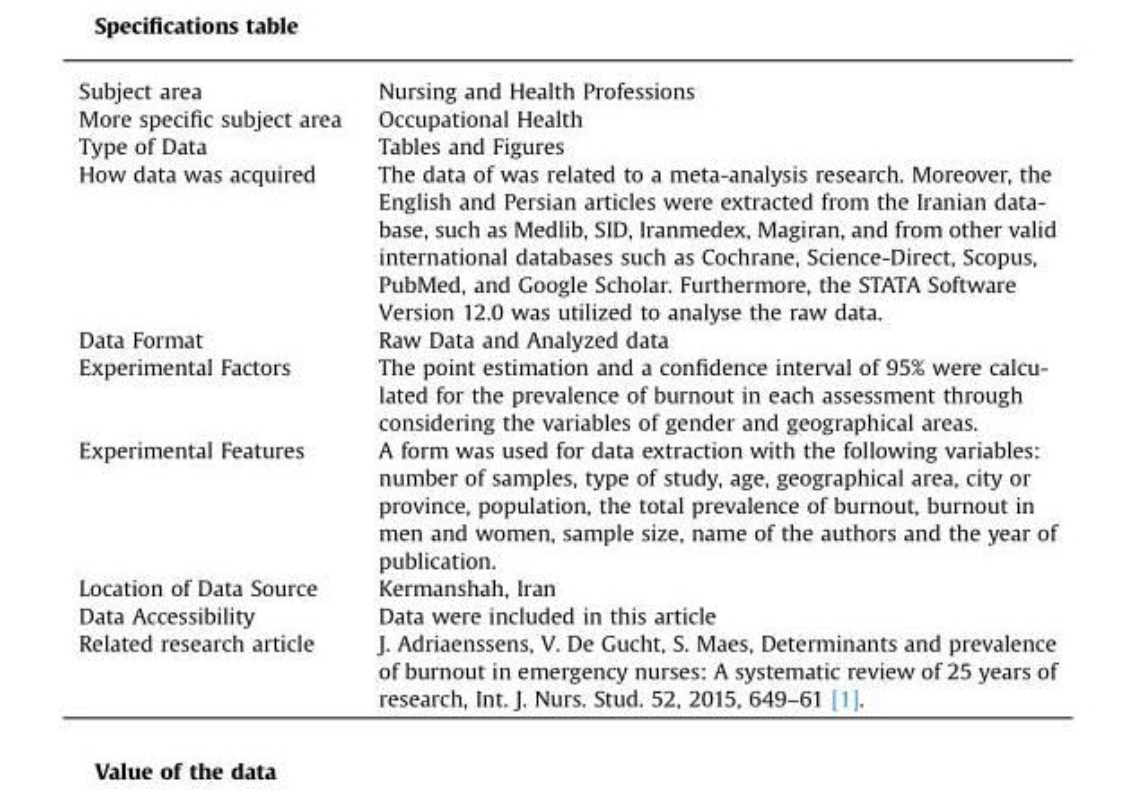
<table><tbody><tr><td>Subject area</td><td>Nursing and Health Professions</td></tr><tr><td>More specific subject area</td><td>Occupational Health</td></tr><tr><td>Type of Data</td><td>Tables and Figures</td></tr><tr><td>How data was acquired</td><td>The data of was related to a meta-analysis research. Moreover, the English and Persian articles were extracted from the Iranian data- base, such as Medlib, SID, Iranmedex, Magiran, and from other valid international databases such as Cochrane, Science-Direct, Scopus, PubMed, and Google Scholar. Furthermore, the STATA Software Version 12.0 was utilized to analyse the raw data.</td></tr><tr><td>Data Format</td><td>Raw Data and Analyzed data</td></tr><tr><td>Experimental Factors</td><td>The point estimation and a confidence interval of 95% were calcu- lated for the prevalence of burnout in each assessment through considering the variables of gender and geographical areas.</td></tr><tr><td>Experimental Features</td><td>A form was used for data extraction with the following variables: number of samples, type of study, age, geographical area, city or province, population, the total prevalence of burnout, burnout in men and women, sample size, name of the authors and the year of publication.</td></tr><tr><td>Location of Data Source</td><td>Kermanshah, Iran</td></tr><tr><td>Data Accessibility</td><td>Data were included in this article</td></tr><tr><td>Related research article</td><td>J. Adriaenssens, V. De Gucht, S. Maes, Determinants and prevalence of burnout in emergency nurses: A systematic review of 25 years of research, Int. J. Nurs. Stud. 52, 2015, 649–61 [1].</td></tr></tbody></table>